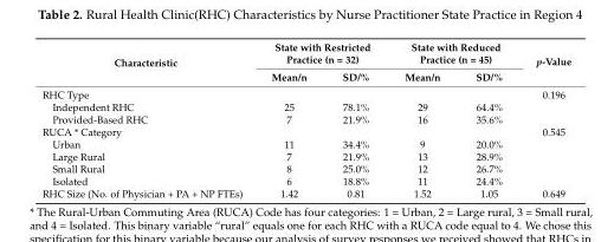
<table><thead><tr><td rowspan="2">Characteristic</td><td colspan="2">State with Restricted Practice (n = 32)</td><td colspan="2">State with Reduced Practice (n = 45)</td><td rowspan="2">p-Value</td></tr><tr><td>Mean/n</td><td>SD/%</td><td>Mean/n</td><td>SD/%</td></tr></thead><tbody><tr><td>RHC Type</td><td></td><td></td><td></td><td></td><td>0.196</td></tr><tr><td>Independent RHC</td><td>25</td><td>78.1%</td><td>29</td><td>64.4%</td><td></td></tr><tr><td>Provided-Based RHC</td><td>7</td><td>21.9%</td><td>16</td><td>35.6%</td><td></td></tr><tr><td>RUCA * Category</td><td></td><td></td><td></td><td></td><td>0.545</td></tr><tr><td>Urban</td><td>11</td><td>34.4%</td><td>9</td><td>20.0%</td><td></td></tr><tr><td>Large Rural</td><td>7</td><td>21.9%</td><td>13</td><td>28.9%</td><td></td></tr><tr><td>Small Rural</td><td>8</td><td>25.0%</td><td>12</td><td>26.7%</td><td></td></tr><tr><td>Isolated</td><td>6</td><td>18.8%</td><td>11</td><td>24.4%</td><td></td></tr><tr><td>RHC Size (No. of Physician + PA + NP FTEs)</td><td>1.42</td><td>0.81</td><td>1.52</td><td>1.05</td><td>0.649</td></tr></tbody></table>